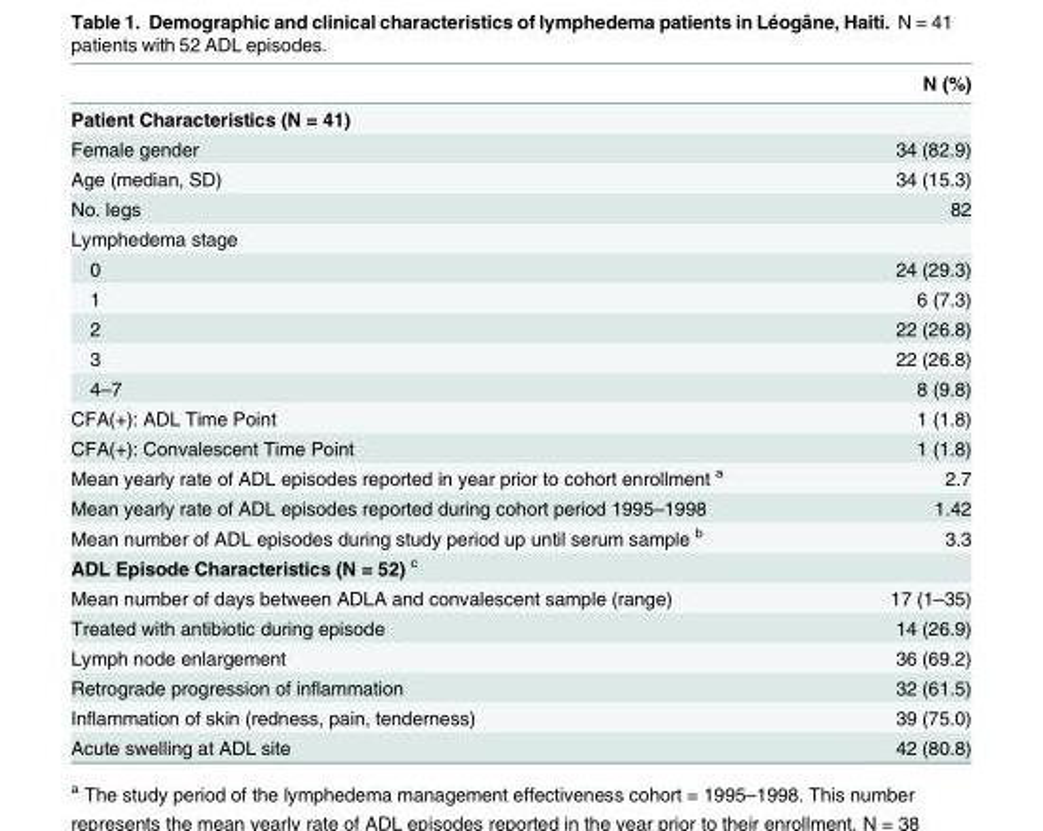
<table><thead><tr><td></td><td>N (%)</td></tr></thead><tbody><tr><td colspan="2">Patient Characteristics (N = 41)</td></tr><tr><td>Female gender</td><td>34 (82.9)</td></tr><tr><td>Age (median, SD)</td><td>34 (15.3)</td></tr><tr><td>No. legs</td><td>82</td></tr><tr><td colspan="2">Lymphedema stage</td></tr><tr><td>0</td><td>24 (29.3)</td></tr><tr><td>1</td><td>6 (7.3)</td></tr><tr><td>2</td><td>22 (26.8)</td></tr><tr><td>3</td><td>22 (26.8)</td></tr><tr><td>4–7</td><td>8 (9.8)</td></tr><tr><td>CFA(+): ADL Time Point</td><td>1 (1.8)</td></tr><tr><td>CFA(+): Convalescent Time Point</td><td>1 (1.8)</td></tr><tr><td>Mean yearly rate of ADL episodes reported in year prior to cohort enrollment <sup>a</sup></td><td>2.7</td></tr><tr><td>Mean yearly rate of ADL episodes reported during cohort period 1995–1998</td><td>1.42</td></tr><tr><td>Mean number of ADL episodes during study period up until serum sample <sup>b</sup></td><td>3.3</td></tr><tr><td colspan="2">ADL Episode Characteristics (N = 52) <sup>c</sup></td></tr><tr><td>Mean number of days between ADLA and convalescent sample (range)</td><td>17 (1–35)</td></tr><tr><td>Treated with antibiotic during episode</td><td>14 (26.9)</td></tr><tr><td>Lymph node enlargement</td><td>36 (69.2)</td></tr><tr><td>Retrograde progression of inflammation</td><td>32 (61.5)</td></tr><tr><td>Inflammation of skin (redness, pain, tenderness)</td><td>39 (75.0)</td></tr><tr><td>Acute swelling at ADL site</td><td>42 (80.8)</td></tr></tbody></table>